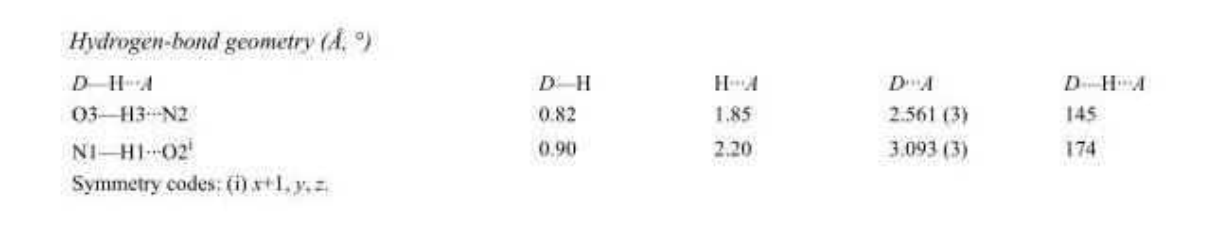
<table><tbody><tr><td>D—H···A</td><td>D—H</td><td>H···A</td><td>D···A</td><td>D—H···A</td></tr><tr><td>O3—H3···N2</td><td>0.82</td><td>1.85</td><td>2.561 (3)</td><td>145</td></tr><tr><td>N1—H1···O2<sup>i</sup></td><td>0.90</td><td>2.20</td><td>3.093 (3)</td><td>174</td></tr></tbody></table>